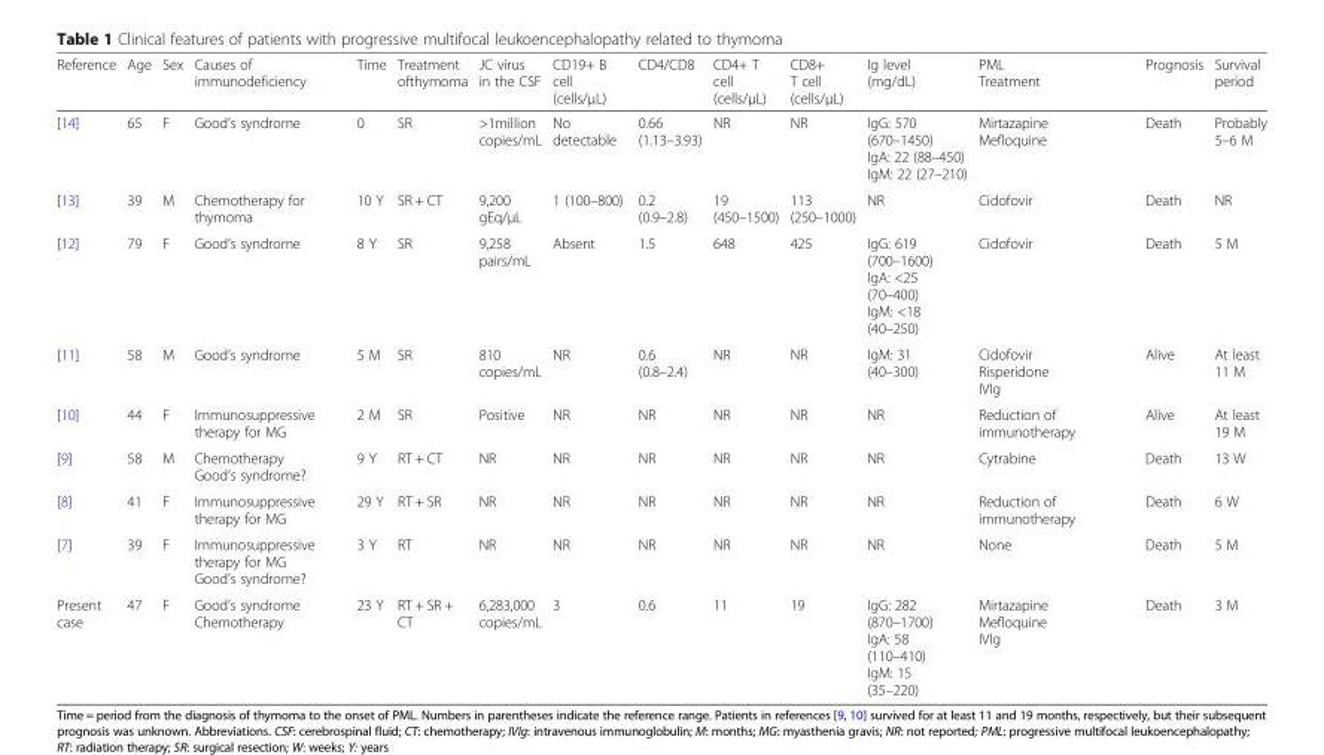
<table><thead><tr><td>Reference</td><td>Age</td><td>Sex</td><td>Causes of immunodeficiency</td><td>Time</td><td>Treatment ofthymoma</td><td>JC virus in the CSF</td><td>CD19+ B cell (cells/μL)</td><td>CD4/CD8</td><td>CD4+ T cell (cells/μL)</td><td>CD8+ T cell (cells/μL)</td><td>Ig level (mg/dL)</td><td>PML Treatment</td><td>Prognosis</td><td>Survival period</td></tr></thead><tbody><tr><td>[14]</td><td>65</td><td>F</td><td>Good’s syndrome</td><td>0</td><td>SR</td><td>&gt;1million copies/mL</td><td>No detectable</td><td>0.66 (1.13–3.93)</td><td>NR</td><td>NR</td><td>IgG: 570 (670–1450) IgA: 22 (88–450) IgM: 22 (27–210)</td><td>Mirtazapine Mefloquine</td><td>Death</td><td>Probably 5–6 M</td></tr><tr><td>[13]</td><td>39</td><td>M</td><td>Chemotherapy for thymoma</td><td>10 Y</td><td>SR + CT</td><td>9,200 gEq/μL</td><td>1 (100–800)</td><td>0.2 (0.9–2.8)</td><td>19 (450–1500)</td><td>113 (250–1000)</td><td>NR</td><td>Cidofovir</td><td>Death</td><td>NR</td></tr><tr><td>[12]</td><td>79</td><td>F</td><td>Good’s syndrome</td><td>8 Y</td><td>SR</td><td>9,258 pairs/mL</td><td>Absent</td><td>1.5</td><td>648</td><td>425</td><td>IgG: 619 (700–1600) IgA: &lt;25 (70–400) IgM: &lt;18 (40–250)</td><td>Cidofovir</td><td>Death</td><td>5 M</td></tr><tr><td>[11]</td><td>58</td><td>M</td><td>Good’s syndrome</td><td>5 M</td><td>SR</td><td>810 copies/mL</td><td>NR</td><td>0.6 (0.8–2.4)</td><td>NR</td><td>NR</td><td>IgM: 31 (40–300)</td><td>Cidofovir Risperidone IVIg</td><td>Alive</td><td>At least 11 M</td></tr><tr><td>[10]</td><td>44</td><td>F</td><td>Immunosuppressive therapy for MG</td><td>2 M</td><td>SR</td><td>Positive</td><td>NR</td><td>NR</td><td>NR</td><td>NR</td><td>NR</td><td>Reduction of immunotherapy</td><td>Alive</td><td>At least 19 M</td></tr><tr><td>[9]</td><td>58</td><td>M</td><td>Chemotherapy Good’s syndrome?</td><td>9 Y</td><td>RT + CT</td><td>NR</td><td>NR</td><td>NR</td><td>NR</td><td>NR</td><td>NR</td><td>Cytrabine</td><td>Death</td><td>13 W</td></tr><tr><td>[8]</td><td>41</td><td>F</td><td>Immunosuppressive therapy for MG</td><td>29 Y</td><td>RT + SR</td><td>NR</td><td>NR</td><td>NR</td><td>NR</td><td>NR</td><td>NR</td><td>Reduction of immunotherapy</td><td>Death</td><td>6 W</td></tr><tr><td>[7]</td><td>39</td><td>F</td><td>Immunosuppressive therapy for MG Good’s syndrome?</td><td>3 Y</td><td>RT</td><td>NR</td><td>NR</td><td>NR</td><td>NR</td><td>NR</td><td>NR</td><td>None</td><td>Death</td><td>5 M</td></tr><tr><td>Present case</td><td>47</td><td>F</td><td>Good’s syndrome Chemotherapy</td><td>23 Y</td><td>RT + SR + CT</td><td>6,283,000 copies/mL</td><td>3</td><td>0.6</td><td>11</td><td>19</td><td>IgG: 282 (870–1700) IgA: 58 (110–410) IgM: 15 (35–220)</td><td>Mirtazapine Mefloquine IVIg</td><td>Death</td><td>3 M</td></tr></tbody></table>